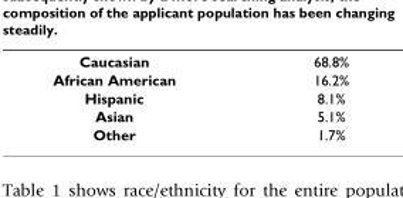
<table><tbody><tr><td>Caucasian</td><td>68.8%</td></tr><tr><td>African American</td><td>16.2%</td></tr><tr><td>Hispanic</td><td>8.1%</td></tr><tr><td>Asian</td><td>5.1%</td></tr><tr><td>Other</td><td>1.7%</td></tr></tbody></table>